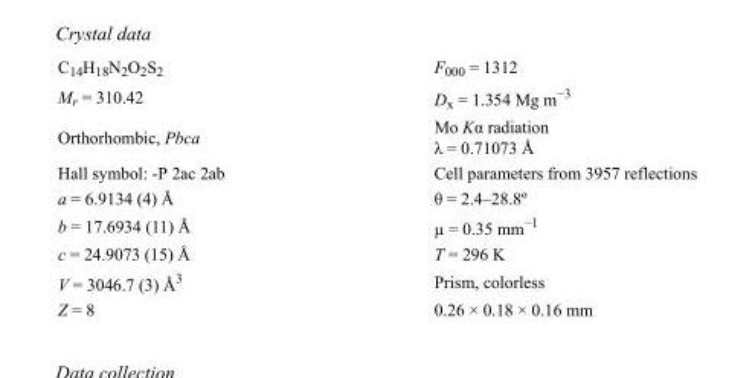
<table><tbody><tr><td>C<sub>14</sub>H<sub>18</sub>N<sub>2</sub>O<sub>2</sub>S<sub>2</sub></td><td>F000 = 1312</td></tr><tr><td>M<sub>r</sub> = 310.42</td><td>D<sub>x</sub> = 1.354 Mg m<sup>−3</sup></td></tr><tr><td>Orthorhombic, Pbca</td><td>Mo Kα radiation λ = 0.71073 Å</td></tr><tr><td>Hall symbol: -P 2ac 2ab</td><td>Cell parameters from 3957 reflections</td></tr><tr><td>a = 6.9134 (4) Å</td><td>θ = 2.4–28.8º</td></tr><tr><td>b = 17.6934 (11) Å</td><td>µ = 0.35 mm<sup>−1</sup></td></tr><tr><td>c = 24.9073 (15) Å</td><td>T = 296 K</td></tr><tr><td>V = 3046.7 (3) Å<sup>3</sup></td><td>Prism, colorless</td></tr><tr><td>Z = 8</td><td>0.26 × 0.18 × 0.16 mm</td></tr></tbody></table>